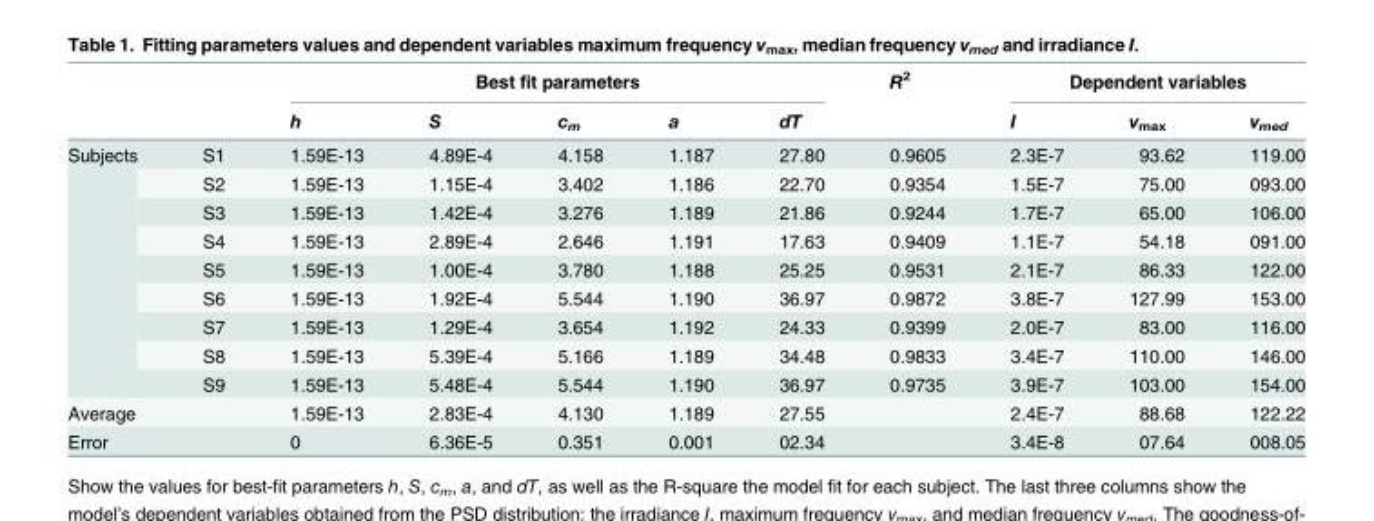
<table><thead><tr><td rowspan="2"></td><td rowspan="2"></td><td colspan="5">Best fit parameters</td><td rowspan="2">R<sup>2</sup></td><td colspan="3">Dependent variables</td></tr><tr><td>h</td><td>S</td><td>c<sub>m</sub></td><td>a</td><td>dT</td><td>I</td><td>v<sub>max</sub></td><td>v<sub>med</sub></td></tr></thead><tbody><tr><td rowspan="9">Subjects</td><td>S1</td><td>1.59E-13</td><td>4.89E-4</td><td>4.158</td><td>1.187</td><td>27.80</td><td>0.9605</td><td>2.3E-7</td><td>93.62</td><td>119.00</td></tr><tr><td>S2</td><td>1.59E-13</td><td>1.15E-4</td><td>3.402</td><td>1.186</td><td>22.70</td><td>0.9354</td><td>1.5E-7</td><td>75.00</td><td>093.00</td></tr><tr><td>S3</td><td>1.59E-13</td><td>1.42E-4</td><td>3.276</td><td>1.189</td><td>21.86</td><td>0.9244</td><td>1.7E-7</td><td>65.00</td><td>106.00</td></tr><tr><td>S4</td><td>1.59E-13</td><td>2.89E-4</td><td>2.646</td><td>1.191</td><td>17.63</td><td>0.9409</td><td>1.1E-7</td><td>54.18</td><td>091.00</td></tr><tr><td>S5</td><td>1.59E-13</td><td>1.00E-4</td><td>3.780</td><td>1.188</td><td>25.25</td><td>0.9531</td><td>2.1E-7</td><td>86.33</td><td>122.00</td></tr><tr><td>S6</td><td>1.59E-13</td><td>1.92E-4</td><td>5.544</td><td>1.190</td><td>36.97</td><td>0.9872</td><td>3.8E-7</td><td>127.99</td><td>153.00</td></tr><tr><td>S7</td><td>1.59E-13</td><td>1.29E-4</td><td>3.654</td><td>1.192</td><td>24.33</td><td>0.9399</td><td>2.0E-7</td><td>83.00</td><td>116.00</td></tr><tr><td>S8</td><td>1.59E-13</td><td>5.39E-4</td><td>5.166</td><td>1.189</td><td>34.48</td><td>0.9833</td><td>3.4E-7</td><td>110.00</td><td>146.00</td></tr><tr><td>S9</td><td>1.59E-13</td><td>5.48E-4</td><td>5.544</td><td>1.190</td><td>36.97</td><td>0.9735</td><td>3.9E-7</td><td>103.00</td><td>154.00</td></tr><tr><td>Average</td><td></td><td>1.59E-13</td><td>2.83E-4</td><td>4.130</td><td>1.189</td><td>27.55</td><td></td><td>2.4E-7</td><td>88.68</td><td>122.22</td></tr><tr><td>Error</td><td></td><td>0</td><td>6.36E-5</td><td>0.351</td><td>0.001</td><td>02.34</td><td></td><td>3.4E-8</td><td>07.64</td><td>008.05</td></tr></tbody></table>